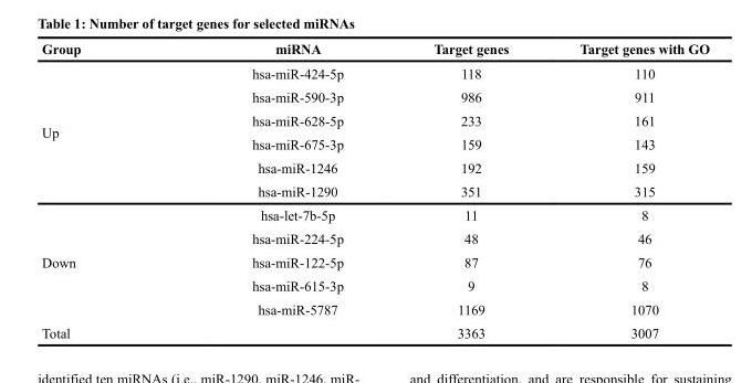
<table><thead><tr><td>Group</td><td>miRNA</td><td>Target genes</td><td>Target genes with GO</td></tr></thead><tbody><tr><td rowspan="6">Up</td><td>hsa-miR-424-5p</td><td>118</td><td>110</td></tr><tr><td>hsa-miR-590-3p</td><td>986</td><td>911</td></tr><tr><td>hsa-miR-628-5p</td><td>233</td><td>161</td></tr><tr><td>hsa-miR-675-3p</td><td>159</td><td>143</td></tr><tr><td>hsa-miR-1246</td><td>192</td><td>159</td></tr><tr><td>hsa-miR-1290</td><td>351</td><td>315</td></tr><tr><td rowspan="5">Down</td><td>hsa-let-7b-5p</td><td>11</td><td>8</td></tr><tr><td>hsa-miR-224-5p</td><td>48</td><td>46</td></tr><tr><td>hsa-miR-122-5p</td><td>87</td><td>76</td></tr><tr><td>hsa-miR-615-3p</td><td>9</td><td>8</td></tr><tr><td>hsa-miR-5787</td><td>1169</td><td>1070</td></tr><tr><td>Total</td><td></td><td>3363</td><td>3007</td></tr></tbody></table>